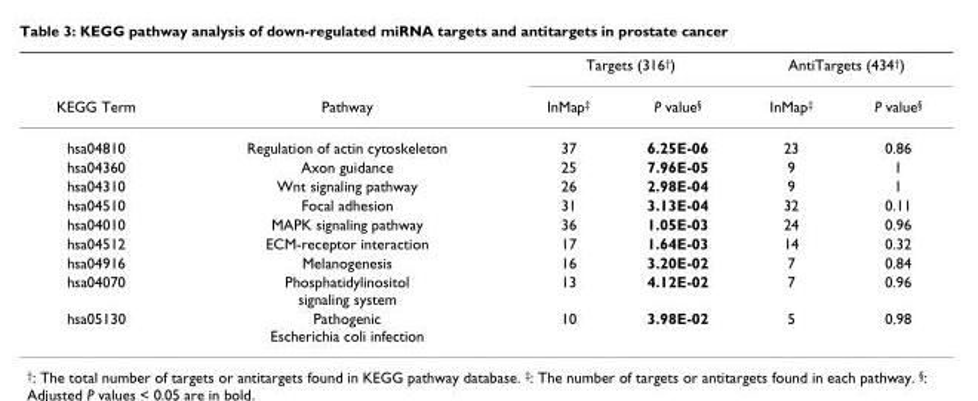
<table><thead><tr><td rowspan="2">KEGG Term</td><td rowspan="2">Pathway</td><td colspan="2">Targets (316<sup>†</sup>)</td><td colspan="2">AntiTargets (434<sup>†</sup>)</td></tr><tr><td>InMap<sup>‡</sup></td><td>P value<sup>§</sup></td><td>InMap<sup>‡</sup></td><td>P value<sup>§</sup></td></tr></thead><tbody><tr><td>hsa04810</td><td>Regulation of actin cytoskeleton</td><td>37</td><td>6.25E-06</td><td>23</td><td>0.86</td></tr><tr><td>hsa04360</td><td>Axon guidance</td><td>25</td><td>7.96E-05</td><td>9</td><td>1</td></tr><tr><td>hsa04310</td><td>Wnt signaling pathway</td><td>26</td><td>2.98E-04</td><td>9</td><td>1</td></tr><tr><td>hsa04510</td><td>Focal adhesion</td><td>31</td><td>3.13E-04</td><td>32</td><td>0.11</td></tr><tr><td>hsa04010</td><td>MAPK signaling pathway</td><td>36</td><td>1.05E-03</td><td>24</td><td>0.96</td></tr><tr><td>hsa04512</td><td>ECM-receptor interaction</td><td>17</td><td>1.64E-03</td><td>14</td><td>0.32</td></tr><tr><td>hsa04916</td><td>Melanogenesis</td><td>16</td><td>3.20E-02</td><td>7</td><td>0.84</td></tr><tr><td>hsa04070</td><td>Phosphatidylinositol signaling system</td><td>13</td><td>4.12E-02</td><td>7</td><td>0.96</td></tr><tr><td>hsa05130</td><td>Pathogenic Escherichia coli infection</td><td>10</td><td>3.98E-02</td><td>5</td><td>0.98</td></tr></tbody></table>